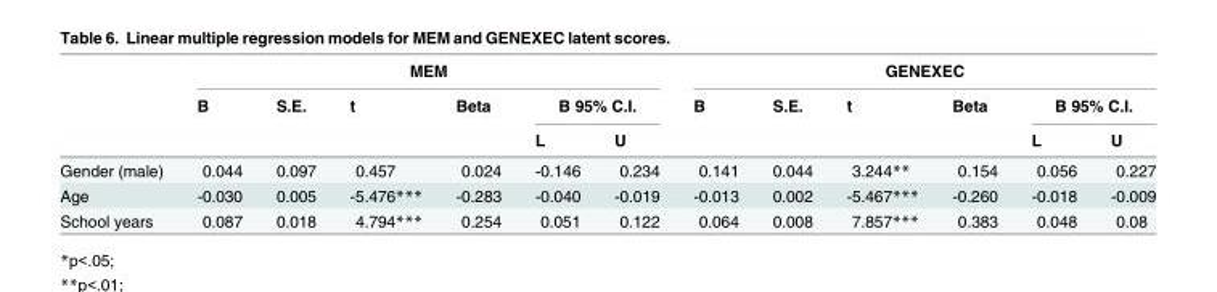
<table><thead><tr><td rowspan="3"></td><td colspan="6">MEM</td><td colspan="6">GENEXEC</td></tr><tr><td rowspan="2">B</td><td rowspan="2">S.E.</td><td rowspan="2">t</td><td rowspan="2">Beta</td><td colspan="2">B 95% C.I.</td><td rowspan="2">B</td><td rowspan="2">S.E.</td><td rowspan="2">t</td><td rowspan="2">Beta</td><td colspan="2">B 95% C.I.</td></tr><tr><td>L</td><td>U</td><td>L</td><td>U</td></tr></thead><tbody><tr><td>Gender (male)</td><td>0.044</td><td>0.097</td><td>0.457</td><td>0.024</td><td>-0.146</td><td>0.234</td><td>0.141</td><td>0.044</td><td>3.244**</td><td>0.154</td><td>0.056</td><td>0.227</td></tr><tr><td>Age</td><td>-0.030</td><td>0.005</td><td>-5.476***</td><td>-0.283</td><td>-0.040</td><td>-0.019</td><td>-0.013</td><td>0.002</td><td>-5.467***</td><td>-0.260</td><td>-0.018</td><td>-0.009</td></tr><tr><td>School years</td><td>0.087</td><td>0.018</td><td>4.794***</td><td>0.254</td><td>0.051</td><td>0.122</td><td>0.064</td><td>0.008</td><td>7.857***</td><td>0.383</td><td>0.048</td><td>0.08</td></tr></tbody></table>